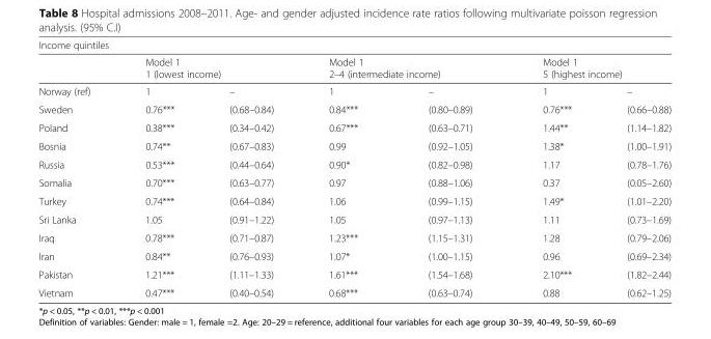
<table><thead><tr><td colspan="7">Income quintiles</td></tr><tr><td rowspan="2">Norway (ref)</td><td colspan="2">Model 1 1 (lowest income)</td><td colspan="2">Model 1 2–4 (intermediate income)</td><td colspan="2">Model 1 5 (highest income)</td></tr><tr><td>1</td><td>–</td><td>1</td><td>–</td><td>1</td><td>–</td></tr></thead><tbody><tr><td>Sweden</td><td>0.76***</td><td>(0.68–0.84)</td><td>0.84***</td><td>(0.80–0.89)</td><td>0.76***</td><td>(0.66–0.88)</td></tr><tr><td>Poland</td><td>0.38***</td><td>(0.34–0.42)</td><td>0.67***</td><td>(0.63–0.71)</td><td>1.44**</td><td>(1.14–1.82)</td></tr><tr><td>Bosnia</td><td>0.74**</td><td>(0.67–0.83)</td><td>0.99</td><td>(0.92–1.05)</td><td>1.38*</td><td>(1.00–1.91)</td></tr><tr><td>Russia</td><td>0.53***</td><td>(0.44–0.64)</td><td>0.90*</td><td>(0.82–0.98)</td><td>1.17</td><td>(0.78–1.76)</td></tr><tr><td>Somalia</td><td>0.70***</td><td>(0.63–0.77)</td><td>0.97</td><td>(0.88–1.06)</td><td>0.37</td><td>(0.05–2.60)</td></tr><tr><td>Turkey</td><td>0.74***</td><td>(0.64–0.84)</td><td>1.06</td><td>(0.99–1.15)</td><td>1.49*</td><td>(1.01–2.20)</td></tr><tr><td>Sri Lanka</td><td>1.05</td><td>(0.91–1.22)</td><td>1.05</td><td>(0.97–1.13)</td><td>1.11</td><td>(0.73–1.69)</td></tr><tr><td>Iraq</td><td>0.78***</td><td>(0.71–0.87)</td><td>1.23***</td><td>(1.15–1.31)</td><td>1.28</td><td>(0.79–2.06)</td></tr><tr><td>Iran</td><td>0.84**</td><td>(0.76–0.93)</td><td>1.07*</td><td>(1.00–1.15)</td><td>0.96</td><td>(0.69–2.34)</td></tr><tr><td>Pakistan</td><td>1.21***</td><td>(1.11–1.33)</td><td>1.61***</td><td>(1.54–1.68)</td><td>2.10***</td><td>(1.82–2.44)</td></tr><tr><td>Vietnam</td><td>0.47***</td><td>(0.40–0.54)</td><td>0.68***</td><td>(0.63–0.74)</td><td>0.88</td><td>(0.62–1.25)</td></tr></tbody></table>